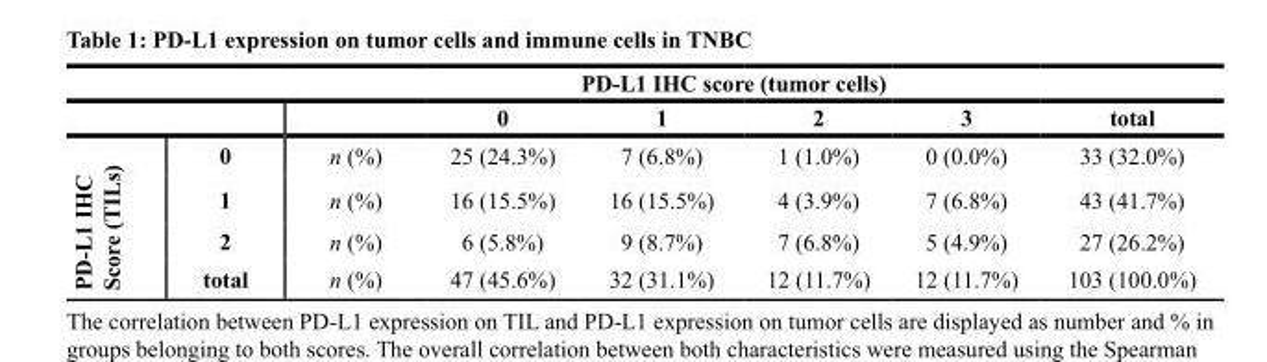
<table><thead><tr><td rowspan="2"></td><td rowspan="2"></td><td rowspan="2"></td><td colspan="5">PD-L1 IHC score (tumor cells)</td></tr><tr><td>0</td><td>1</td><td>2</td><td>3</td><td>total</td></tr></thead><tbody><tr><td rowspan="4">PD-L1 IHC Score (TILs)</td><td>0</td><td>n (%)</td><td>25 (24.3%)</td><td>7 (6.8%)</td><td>1 (1.0%)</td><td>0 (0.0%)</td><td>33 (32.0%)</td></tr><tr><td>1</td><td>n (%)</td><td>16 (15.5%)</td><td>16 (15.5%)</td><td>4 (3.9%)</td><td>7 (6.8%)</td><td>43 (41.7%)</td></tr><tr><td>2</td><td>n (%)</td><td>6 (5.8%)</td><td>9 (8.7%)</td><td>7 (6.8%)</td><td>5 (4.9%)</td><td>27 (26.2%)</td></tr><tr><td>total</td><td>n (%)</td><td>47 (45.6%)</td><td>32 (31.1%)</td><td>12 (11.7%)</td><td>12 (11.7%)</td><td>103 (100.0%)</td></tr></tbody></table>